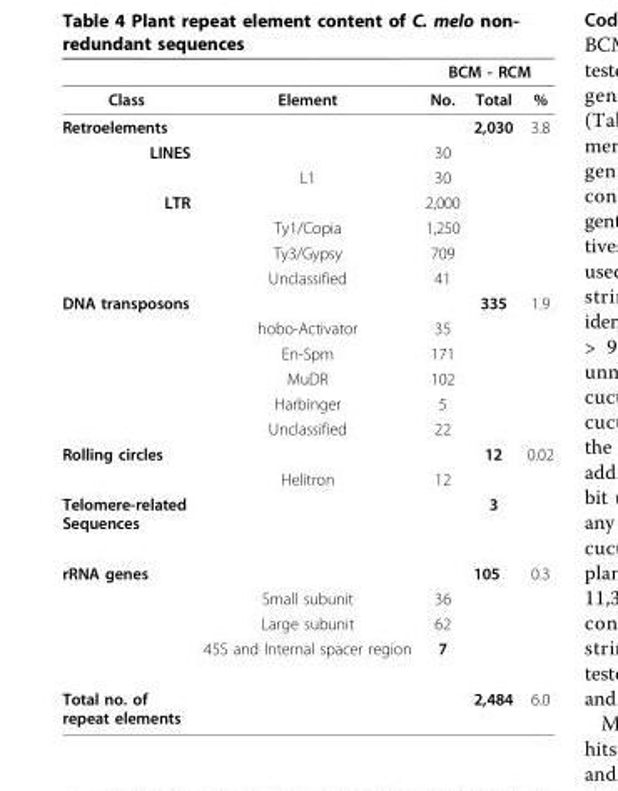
<table><thead><tr><td rowspan="2">Class</td><td rowspan="2">Element</td><td colspan="3">BCM - RCM</td></tr><tr><td>No.</td><td>Total</td><td>%</td></tr></thead><tbody><tr><td>Retroelements</td><td></td><td></td><td>2,030</td><td>3.8</td></tr><tr><td rowspan="2">LINES</td><td></td><td>30</td><td></td><td></td></tr><tr><td>L1</td><td>30</td><td></td><td></td></tr><tr><td rowspan="4">LTR</td><td></td><td>2,000</td><td></td><td></td></tr><tr><td>Ty1/Copia</td><td>1,250</td><td></td><td></td></tr><tr><td>Ty3/Gypsy</td><td>709</td><td></td><td></td></tr><tr><td>Unclassified</td><td>41</td><td></td><td></td></tr><tr><td rowspan="6">DNA transposons</td><td></td><td></td><td>335</td><td>1.9</td></tr><tr><td>hobo-Activator</td><td>35</td><td></td><td></td></tr><tr><td>En-Spm</td><td>171</td><td></td><td></td></tr><tr><td>MuDR</td><td>102</td><td></td><td></td></tr><tr><td>Harbinger</td><td>5</td><td></td><td></td></tr><tr><td>Unclassified</td><td>22</td><td></td><td></td></tr><tr><td rowspan="2">Rolling circles</td><td></td><td></td><td>12</td><td>0.02</td></tr><tr><td>Helitron</td><td>12</td><td></td><td></td></tr><tr><td>Telomere-related Sequences</td><td></td><td></td><td>3</td><td></td></tr><tr><td rowspan="4">rRNA genes</td><td></td><td></td><td>105</td><td>0.3</td></tr><tr><td>Small subunit</td><td>36</td><td></td><td></td></tr><tr><td>Large subunit</td><td>62</td><td></td><td></td></tr><tr><td>45S and Internal spacer region</td><td>7</td><td></td><td></td></tr><tr><td>Total no. of repeat elements</td><td></td><td></td><td>2,484</td><td>6.0</td></tr></tbody></table>